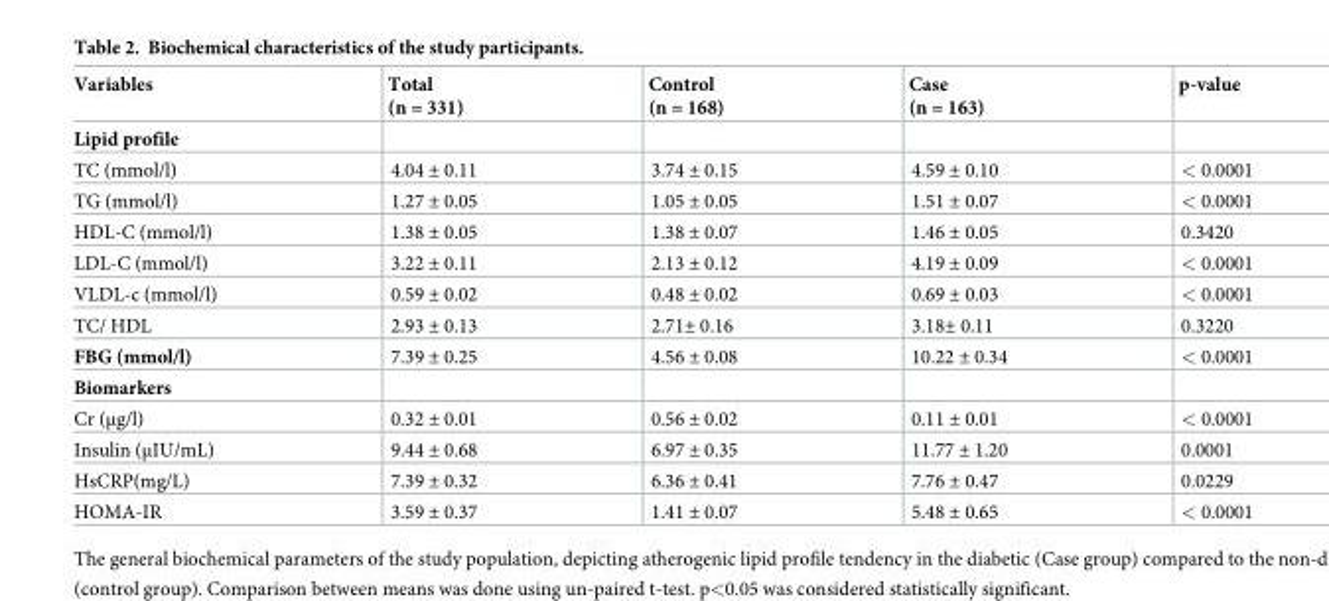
<table><thead><tr><td>Variables</td><td>Total (n = 331)</td><td>Control (n = 168)</td><td>Case (n = 163)</td><td>p-value</td></tr></thead><tbody><tr><td colspan="5">Lipid profile</td></tr><tr><td>TC (mmol/l)</td><td>4.04 ± 0.11</td><td>3.74 ± 0.15</td><td>4.59 ± 0.10</td><td>&lt; 0.0001</td></tr><tr><td>TG (mmol/l)</td><td>1.27 ± 0.05</td><td>1.05 ± 0.05</td><td>1.51 ± 0.07</td><td>&lt; 0.0001</td></tr><tr><td>HDL-C (mmol/l)</td><td>1.38 ± 0.05</td><td>1.38 ± 0.07</td><td>1.46 ± 0.05</td><td>0.3420</td></tr><tr><td>LDL-C (mmol/l)</td><td>3.22 ± 0.11</td><td>2.13 ± 0.12</td><td>4.19 ± 0.09</td><td>&lt; 0.0001</td></tr><tr><td>VLDL-c (mmol/l)</td><td>0.59 ± 0.02</td><td>0.48 ± 0.02</td><td>0.69 ± 0.03</td><td>&lt; 0.0001</td></tr><tr><td>TC/ HDL</td><td>2.93 ± 0.13</td><td>2.71± 0.16</td><td>3.18± 0.11</td><td>0.3220</td></tr><tr><td>FBG (mmol/l)</td><td>7.39 ± 0.25</td><td>4.56 ± 0.08</td><td>10.22 ± 0.34</td><td>&lt; 0.0001</td></tr><tr><td colspan="5">Biomarkers</td></tr><tr><td>Cr (μg/l)</td><td>0.32 ± 0.01</td><td>0.56 ± 0.02</td><td>0.11 ± 0.01</td><td>&lt; 0.0001</td></tr><tr><td>Insulin (μIU/mL)</td><td>9.44 ± 0.68</td><td>6.97 ± 0.35</td><td>11.77 ± 1.20</td><td>0.0001</td></tr><tr><td>HsCRP(mg/L)</td><td>7.39 ± 0.32</td><td>6.36 ± 0.41</td><td>7.76 ± 0.47</td><td>0.0229</td></tr><tr><td>HOMA-IR</td><td>3.59 ± 0.37</td><td>1.41 ± 0.07</td><td>5.48 ± 0.65</td><td>&lt; 0.0001</td></tr></tbody></table>